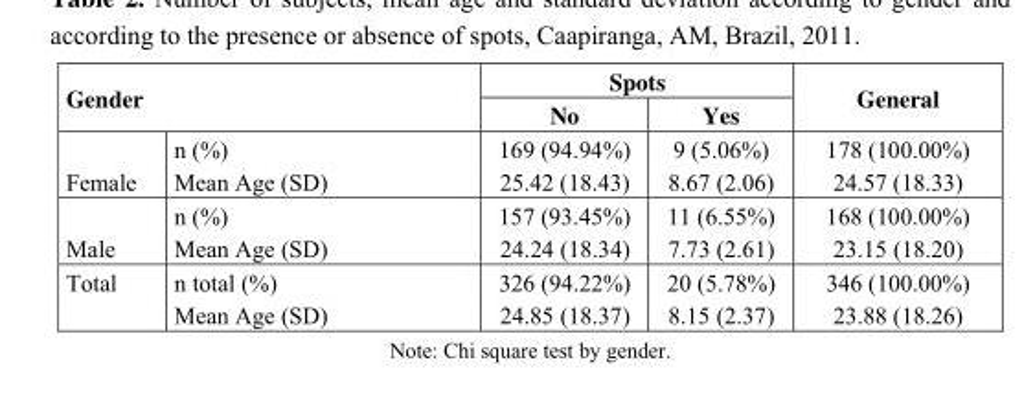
<table><thead><tr><td rowspan="2" colspan="2">Gender</td><td colspan="2">Spots</td><td rowspan="3">General 178 (100.00%)</td></tr><tr><td rowspan="2">No 169 (94.94%)</td><td rowspan="2">Yes 9 (5.06%)</td></tr><tr><td></td><td>n (%)</td></tr></thead><tbody><tr><td rowspan="2">Female</td><td>Mean Age (SD)</td><td>25.42 (18.43)</td><td>8.67 (2.06)</td><td>24.57 (18.33)</td></tr><tr><td>n (%)</td><td>157 (93.45%)</td><td>11 (6.55%)</td><td>168 (100.00%)</td></tr><tr><td>Male</td><td>Mean Age (SD)</td><td>24.24 (18.34)</td><td>7.73 (2.61)</td><td>23.15 (18.20)</td></tr><tr><td rowspan="2">Total</td><td>n total (%)</td><td>326 (94.22%)</td><td>20 (5.78%)</td><td>346 (100.00%)</td></tr><tr><td>Mean Age (SD)</td><td>24.85 (18.37)</td><td>8.15 (2.37)</td><td>23.88 (18.26)</td></tr></tbody></table>